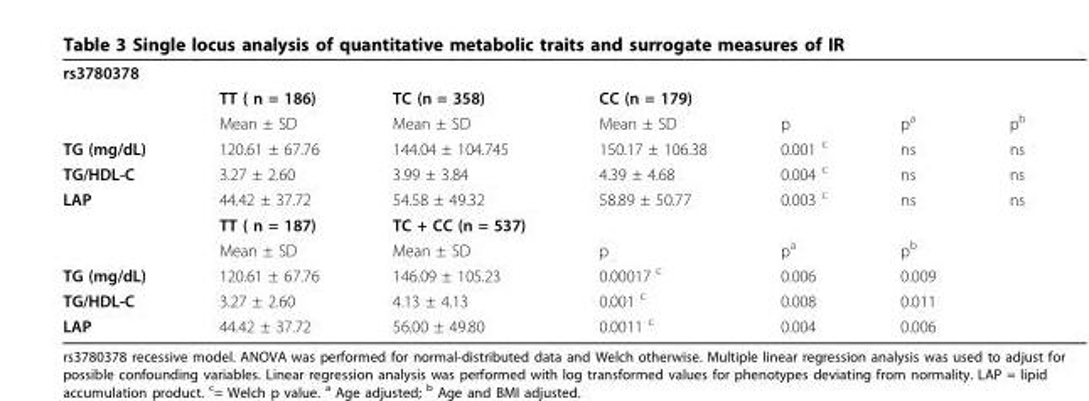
<table><tbody><tr><td colspan="7">rs3780378</td></tr><tr><td></td><td>TT ( n = 186)</td><td>TC (n = 358)</td><td>CC (n = 179)</td><td></td><td></td><td></td></tr><tr><td></td><td>Mean ± SD</td><td>Mean ± SD</td><td>Mean ± SD</td><td>p</td><td>p<sup>a</sup></td><td>p<sup>b</sup></td></tr><tr><td>TG (mg/dL)</td><td>120.61 ± 67.76</td><td>144.04 ± 104.745</td><td>150.17 ± 106.38</td><td>0.001 <sup>c</sup></td><td>ns</td><td>ns</td></tr><tr><td>TG/HDL-C</td><td>3.27 ± 2.60</td><td>3.99 ± 3.84</td><td>4.39 ± 4.68</td><td>0.004 <sup>c</sup></td><td>ns</td><td>ns</td></tr><tr><td rowspan="3">LAP</td><td>44.42 ± 37.72</td><td>54.58 ± 49.32</td><td>58.89 ± 50.77</td><td>0.003 <sup>c</sup></td><td>ns</td><td>ns</td></tr><tr><td>TT ( n = 187)</td><td>TC + CC (n = 537)</td><td></td><td></td><td></td><td></td></tr><tr><td>Mean ± SD</td><td>Mean ± SD</td><td>p</td><td>p<sup>a</sup></td><td>p<sup>b</sup></td><td></td></tr><tr><td>TG (mg/dL)</td><td>120.61 ± 67.76</td><td>146.09 ± 105.23</td><td>0.00017 <sup>c</sup></td><td>0.006</td><td>0.009</td><td></td></tr><tr><td>TG/HDL-C</td><td>3.27 ± 2.60</td><td>4.13 ± 4.13</td><td>0.001 <sup>c</sup></td><td>0.008</td><td>0.011</td><td></td></tr><tr><td>LAP</td><td>44.42 ± 37.72</td><td>56.00 ± 49.80</td><td>0.0011 <sup>c</sup></td><td>0.004</td><td>0.006</td><td></td></tr></tbody></table>